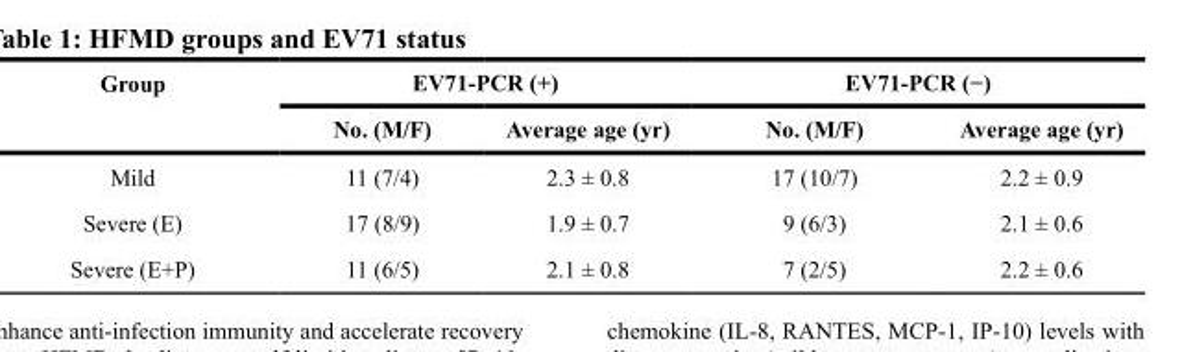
<table><thead><tr><td rowspan="2">Group</td><td colspan="2">EV71-PCR (+)</td><td colspan="2">EV71-PCR (−)</td></tr><tr><td>No. (M/F)</td><td>Average age (yr)</td><td>No. (M/F)</td><td>Average age (yr)</td></tr></thead><tbody><tr><td>Mild</td><td>11 (7/4)</td><td>2.3 ± 0.8</td><td>17 (10/7)</td><td>2.2 ± 0.9</td></tr><tr><td>Severe (E)</td><td>17 (8/9)</td><td>1.9 ± 0.7</td><td>9 (6/3)</td><td>2.1 ± 0.6</td></tr><tr><td>Severe (E+P)</td><td>11 (6/5)</td><td>2.1 ± 0.8</td><td>7 (2/5)</td><td>2.2 ± 0.6</td></tr></tbody></table>